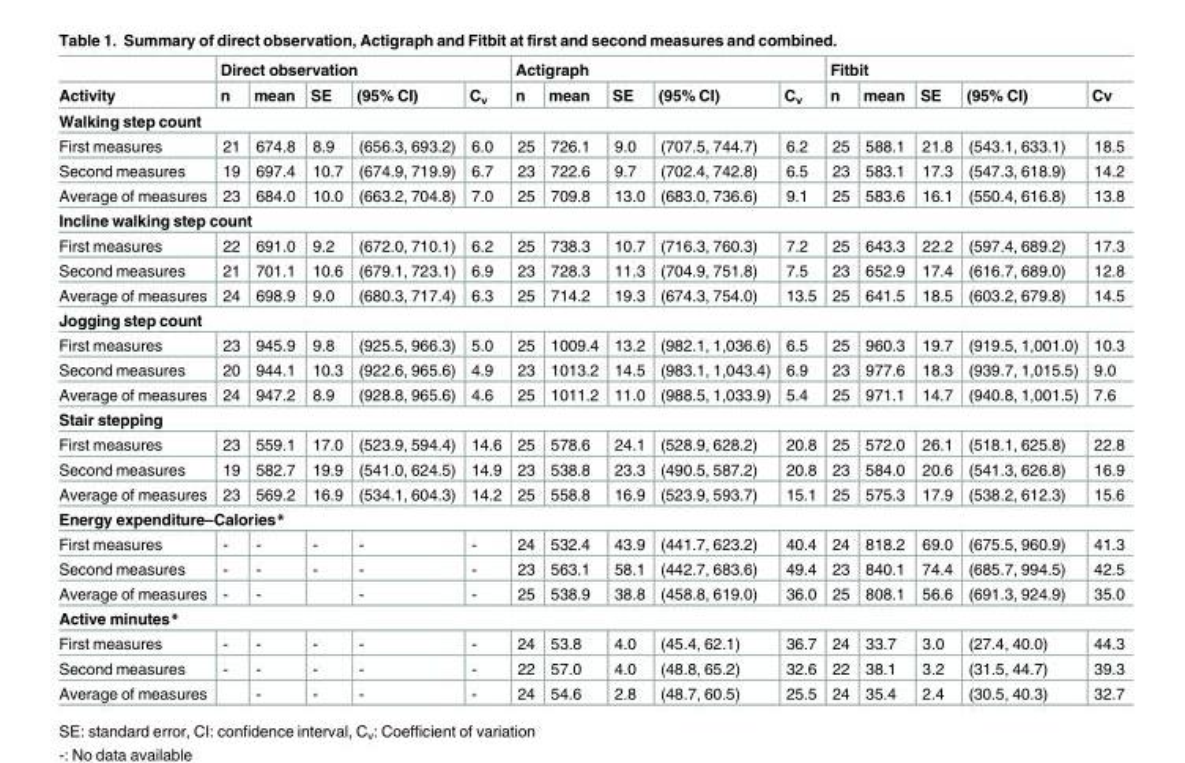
<table><thead><tr><td rowspan="2">Activity</td><td colspan="5">Direct observation</td><td colspan="5">Actigraph</td><td colspan="5">Fitbit</td></tr><tr><td>n</td><td>mean</td><td>SE</td><td>(95% CI)</td><td>C<sub>v</sub></td><td>n</td><td>mean</td><td>SE</td><td>(95% CI)</td><td>C<sub>v</sub></td><td>n</td><td>mean</td><td>SE</td><td>(95% CI)</td><td>Cv</td></tr></thead><tbody><tr><td colspan="16">Walking step count</td></tr><tr><td>First measures</td><td>21</td><td>674.8</td><td>8.9</td><td>(656.3, 693.2)</td><td>6.0</td><td>25</td><td>726.1</td><td>9.0</td><td>(707.5, 744.7)</td><td>6.2</td><td>25</td><td>588.1</td><td>21.8</td><td>(543.1, 633.1)</td><td>18.5</td></tr><tr><td>Second measures</td><td>19</td><td>697.4</td><td>10.7</td><td>(674.9, 719.9)</td><td>6.7</td><td>23</td><td>722.6</td><td>9.7</td><td>(702.4, 742.8)</td><td>6.5</td><td>23</td><td>583.1</td><td>17.3</td><td>(547.3, 618.9)</td><td>14.2</td></tr><tr><td>Average of measures</td><td>23</td><td>684.0</td><td>10.0</td><td>(663.2, 704.8)</td><td>7.0</td><td>25</td><td>709.8</td><td>13.0</td><td>(683.0, 736.6)</td><td>9.1</td><td>25</td><td>583.6</td><td>16.1</td><td>(550.4, 616.8)</td><td>13.8</td></tr><tr><td colspan="16">Incline walking step count</td></tr><tr><td>First measures</td><td>22</td><td>691.0</td><td>9.2</td><td>(672.0, 710.1)</td><td>6.2</td><td>25</td><td>738.3</td><td>10.7</td><td>(716.3, 760.3)</td><td>7.2</td><td>25</td><td>643.3</td><td>22.2</td><td>(597.4, 689.2)</td><td>17.3</td></tr><tr><td>Second measures</td><td>21</td><td>701.1</td><td>10.6</td><td>(679.1, 723.1)</td><td>6.9</td><td>23</td><td>728.3</td><td>11.3</td><td>(704.9, 751.8)</td><td>7.5</td><td>23</td><td>652.9</td><td>17.4</td><td>(616.7, 689.0)</td><td>12.8</td></tr><tr><td>Average of measures</td><td>24</td><td>698.9</td><td>9.0</td><td>(680.3, 717.4)</td><td>6.3</td><td>25</td><td>714.2</td><td>19.3</td><td>(674.3, 754.0)</td><td>13.5</td><td>25</td><td>641.5</td><td>18.5</td><td>(603.2, 679.8)</td><td>14.5</td></tr><tr><td colspan="16">Jogging step count</td></tr><tr><td>First measures</td><td>23</td><td>945.9</td><td>9.8</td><td>(925.5, 966.3)</td><td>5.0</td><td>25</td><td>1009.4</td><td>13.2</td><td>(982.1, 1,036.6)</td><td>6.5</td><td>25</td><td>960.3</td><td>19.7</td><td>(919.5, 1,001.0)</td><td>10.3</td></tr><tr><td>Second measures</td><td>20</td><td>944.1</td><td>10.3</td><td>(922.6, 965.6)</td><td>4.9</td><td>23</td><td>1013.2</td><td>14.5</td><td>(983.1, 1,043.4)</td><td>6.9</td><td>23</td><td>977.6</td><td>18.3</td><td>(939.7, 1,015.5)</td><td>9.0</td></tr><tr><td>Average of measures</td><td>24</td><td>947.2</td><td>8.9</td><td>(928.8, 965.6)</td><td>4.6</td><td>25</td><td>1011.2</td><td>11.0</td><td>(988.5, 1,033.9)</td><td>5.4</td><td>25</td><td>971.1</td><td>14.7</td><td>(940.8, 1,001.5)</td><td>7.6</td></tr><tr><td colspan="16">Stair stepping</td></tr><tr><td>First measures</td><td>23</td><td>559.1</td><td>17.0</td><td>(523.9, 594.4)</td><td>14.6</td><td>25</td><td>578.6</td><td>24.1</td><td>(528.9, 628.2)</td><td>20.8</td><td>25</td><td>572.0</td><td>26.1</td><td>(518.1, 625.8)</td><td>22.8</td></tr><tr><td>Second measures</td><td>19</td><td>582.7</td><td>19.9</td><td>(541.0, 624.5)</td><td>14.9</td><td>23</td><td>538.8</td><td>23.3</td><td>(490.5, 587.2)</td><td>20.8</td><td>23</td><td>584.0</td><td>20.6</td><td>(541.3, 626.8)</td><td>16.9</td></tr><tr><td>Average of measures</td><td>23</td><td>569.2</td><td>16.9</td><td>(534.1, 604.3)</td><td>14.2</td><td>25</td><td>558.8</td><td>16.9</td><td>(523.9, 593.7)</td><td>15.1</td><td>25</td><td>575.3</td><td>17.9</td><td>(538.2, 612.3)</td><td>15.6</td></tr><tr><td colspan="16">Energy expenditure–Calories*</td></tr><tr><td>First measures</td><td>-</td><td>-</td><td>-</td><td>-</td><td>-</td><td>24</td><td>532.4</td><td>43.9</td><td>(441.7, 623.2)</td><td>40.4</td><td>24</td><td>818.2</td><td>69.0</td><td>(675.5, 960.9)</td><td>41.3</td></tr><tr><td>Second measures</td><td>-</td><td>-</td><td>-</td><td>-</td><td>-</td><td>23</td><td>563.1</td><td>58.1</td><td>(442.7, 683.6)</td><td>49.4</td><td>23</td><td>840.1</td><td>74.4</td><td>(685.7, 994.5)</td><td>42.5</td></tr><tr><td>Average of measures</td><td>-</td><td>-</td><td></td><td>-</td><td>-</td><td>25</td><td>538.9</td><td>38.8</td><td>(458.8, 619.0)</td><td>36.0</td><td>25</td><td>808.1</td><td>56.6</td><td>(691.3, 924.9)</td><td>35.0</td></tr><tr><td colspan="16">Active minutes*</td></tr><tr><td>First measures</td><td>-</td><td>-</td><td>-</td><td>-</td><td>-</td><td>24</td><td>53.8</td><td>4.0</td><td>(45.4, 62.1)</td><td>36.7</td><td>24</td><td>33.7</td><td>3.0</td><td>(27.4, 40.0)</td><td>44.3</td></tr><tr><td>Second measures</td><td>-</td><td>-</td><td>-</td><td>-</td><td>-</td><td>22</td><td>57.0</td><td>4.0</td><td>(48.8, 65.2)</td><td>32.6</td><td>22</td><td>38.1</td><td>3.2</td><td>(31.5, 44.7)</td><td>39.3</td></tr><tr><td>Average of measures</td><td></td><td>-</td><td>-</td><td>-</td><td>-</td><td>24</td><td>54.6</td><td>2.8</td><td>(48.7, 60.5)</td><td>25.5</td><td>24</td><td>35.4</td><td>2.4</td><td>(30.5, 40.3)</td><td>32.7</td></tr></tbody></table>